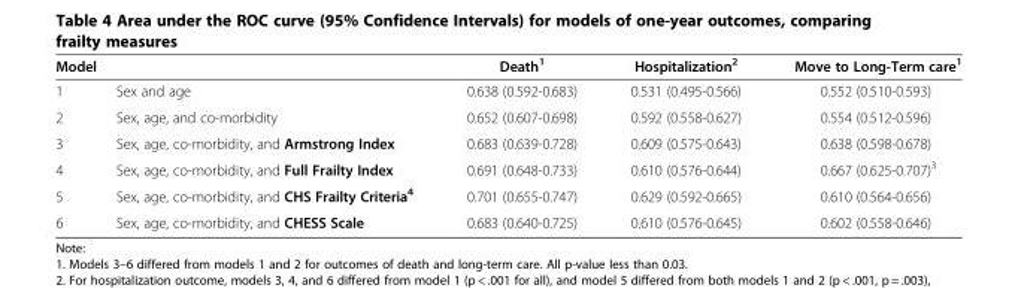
<table><thead><tr><td colspan="2">Model</td><td rowspan="2">Death<sup>1</sup> 0.638 (0.592-0.683)</td><td rowspan="2">Hospitalization<sup>2</sup> 0.531 (0.495-0.566)</td><td rowspan="2">Move to Long-Term care<sup>1</sup> 0.552 (0.510-0.593)</td></tr><tr><td>1</td><td>Sex and age</td></tr></thead><tbody><tr><td>2</td><td>Sex, age, and co-morbidity</td><td>0.652 (0.607-0.698)</td><td>0.592 (0.558-0.627)</td><td>0.554 (0.512-0.596)</td></tr><tr><td>3</td><td>Sex, age, co-morbidity, and Armstrong Index</td><td>0.683 (0.639-0.728)</td><td>0.609 (0.575-0.643)</td><td>0.638 (0.598-0.678)</td></tr><tr><td>4</td><td>Sex, age, co-morbidity, and Full Frailty Index</td><td>0.691 (0.648-0.733)</td><td>0.610 (0.576-0.644)</td><td>0.667 (0.625-0.707)<sup>3</sup></td></tr><tr><td>5</td><td>Sex, age, co-morbidity, and CHS Frailty Criteria<sup>4</sup></td><td>0.701 (0.655-0.747)</td><td>0.629 (0.592-0.665)</td><td>0.610 (0.564-0.656)</td></tr><tr><td>6</td><td>Sex, age, co-morbidity, and CHESS Scale</td><td>0.683 (0.640-0.725)</td><td>0.610 (0.576-0.645)</td><td>0.602 (0.558-0.646)</td></tr></tbody></table>